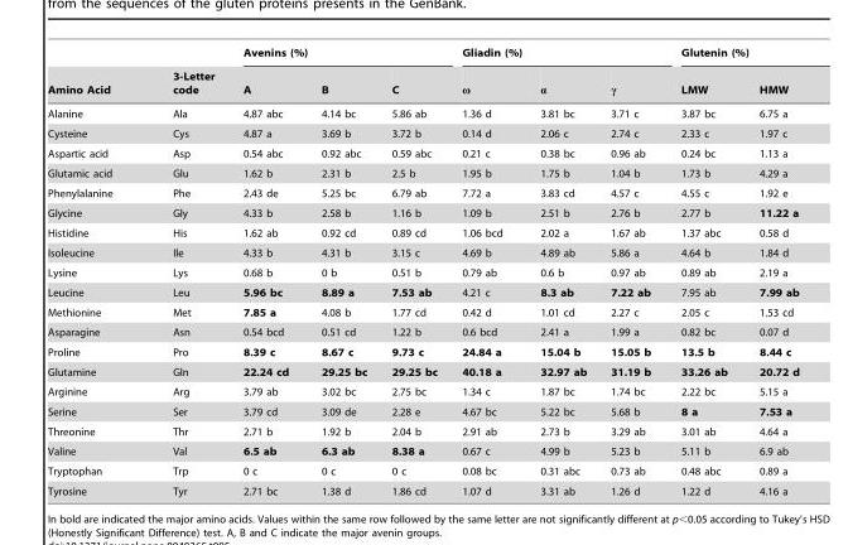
<table><thead><tr><td rowspan="2">Amino Acid</td><td rowspan="2">3-Letter code</td><td colspan="3">Avenins (%)</td><td colspan="3">Gliadin (%)</td><td colspan="2">Glutenin (%)</td></tr><tr><td>A</td><td>B</td><td>C</td><td>ω</td><td>α</td><td>γ</td><td>LMW</td><td>HMW</td></tr></thead><tbody><tr><td>Alanine</td><td>Ala</td><td>4.87 abc</td><td>4.14 bc</td><td>5.86 ab</td><td>1.36 d</td><td>3.81 bc</td><td>3.71 c</td><td>3.87 bc</td><td>6.75 a</td></tr><tr><td>Cysteine</td><td>Cys</td><td>4.87 a</td><td>3.69 b</td><td>3.72 b</td><td>0.14 d</td><td>2.06 c</td><td>2.74 c</td><td>2.33 c</td><td>1.97 c</td></tr><tr><td>Aspartic acid</td><td>Asp</td><td>0.54 abc</td><td>0.92 abc</td><td>0.59 abc</td><td>0.21 c</td><td>0.38 bc</td><td>0.96 ab</td><td>0.24 bc</td><td>1.13 a</td></tr><tr><td>Glutamic acid</td><td>Glu</td><td>1.62 b</td><td>2.31 b</td><td>2.5 b</td><td>1.95 b</td><td>1.75 b</td><td>1.04 b</td><td>1.73 b</td><td>4.29 a</td></tr><tr><td>Phenylalanine</td><td>Phe</td><td>2.43 de</td><td>5.25 bc</td><td>6.79 ab</td><td>7.72 a</td><td>3.83 cd</td><td>4.57 c</td><td>4.55 c</td><td>1.92 e</td></tr><tr><td>Glycine</td><td>Gly</td><td>4.33 b</td><td>2.58 b</td><td>1.16 b</td><td>1.09 b</td><td>2.51 b</td><td>2.76 b</td><td>2.77 b</td><td>11.22 a</td></tr><tr><td>Histidine</td><td>His</td><td>1.62 ab</td><td>0.92 cd</td><td>0.89 cd</td><td>1.06 bcd</td><td>2.02 a</td><td>1.67 ab</td><td>1.37 abc</td><td>0.58 d</td></tr><tr><td>Isoleucine</td><td>Ile</td><td>4.33 b</td><td>4.31 b</td><td>3.15 c</td><td>4.69 b</td><td>4.89 ab</td><td>5.86 a</td><td>4.64 b</td><td>1.84 d</td></tr><tr><td>Lysine</td><td>Lys</td><td>0.68 b</td><td>0 b</td><td>0.51 b</td><td>0.79 ab</td><td>0.6 b</td><td>0.97 ab</td><td>0.89 ab</td><td>2.19 a</td></tr><tr><td>Leucine</td><td>Leu</td><td>5.96 bc</td><td>8.89 a</td><td>7.53 ab</td><td>4.21 c</td><td>8.3 ab</td><td>7.22 ab</td><td>7.95 ab</td><td>7.99 ab</td></tr><tr><td>Methionine</td><td>Met</td><td>7.85 a</td><td>4.08 b</td><td>1.77 cd</td><td>0.42 d</td><td>1.01 cd</td><td>2.27 c</td><td>2.05 c</td><td>1.53 cd</td></tr><tr><td>Asparagine</td><td>Asn</td><td>0.54 bcd</td><td>0.51 cd</td><td>1.22 b</td><td>0.6 bcd</td><td>2.41 a</td><td>1.99 a</td><td>0.82 bc</td><td>0.07 d</td></tr><tr><td>Proline</td><td>Pro</td><td>8.39 c</td><td>8.67 c</td><td>9.73 c</td><td>24.84 a</td><td>15.04 b</td><td>15.05 b</td><td>13.5 b</td><td>8.44 c</td></tr><tr><td>Glutamine</td><td>Gln</td><td>22.24 cd</td><td>29.25 bc</td><td>29.25 bc</td><td>40.18 a</td><td>32.97 ab</td><td>31.19 b</td><td>33.26 ab</td><td>20.72 d</td></tr><tr><td>Arginine</td><td>Arg</td><td>3.79 ab</td><td>3.02 bc</td><td>2.75 bc</td><td>1.34 c</td><td>1.87 bc</td><td>1.74 bc</td><td>2.22 bc</td><td>5.15 a</td></tr><tr><td>Serine</td><td>Ser</td><td>3.79 cd</td><td>3.09 de</td><td>2.28 e</td><td>4.67 bc</td><td>5.22 bc</td><td>5.68 b</td><td>8 a</td><td>7.53 a</td></tr><tr><td>Threonine</td><td>Thr</td><td>2.71 b</td><td>1.92 b</td><td>2.04 b</td><td>2.91 ab</td><td>2.73 b</td><td>3.29 ab</td><td>3.01 ab</td><td>4.64 a</td></tr><tr><td>Valine</td><td>Val</td><td>6.5 ab</td><td>6.3 ab</td><td>8.38 a</td><td>0.67 c</td><td>4.99 b</td><td>5.23 b</td><td>5.11 b</td><td>6.9 ab</td></tr><tr><td>Tryptophan</td><td>Trp</td><td>0 c</td><td>0 c</td><td>0 c</td><td>0.08 bc</td><td>0.31 abc</td><td>0.73 ab</td><td>0.48 abc</td><td>0.89 a</td></tr><tr><td>Tyrosine</td><td>Tyr</td><td>2.71 bc</td><td>1.38 d</td><td>1.86 cd</td><td>1.07 d</td><td>3.31 ab</td><td>1.26 d</td><td>1.22 d</td><td>4.16 a</td></tr></tbody></table>